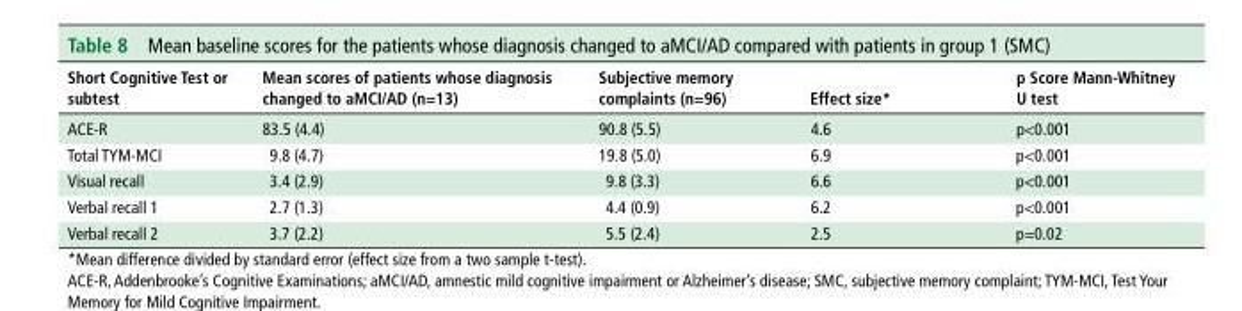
<table><thead><tr><td>short cognitive test or subtest</td><td>Mean scores of patients whose diagnosis changed to aMcI/Ad (n=13)</td><td>subjective memory complaints (n=96)</td><td>effect size*</td><td>p score Mann-Whitney u test</td></tr></thead><tbody><tr><td>ACE-R</td><td>83.5 (4.4)</td><td>90.8 (5.5)</td><td>4.6</td><td>p&lt;0.001</td></tr><tr><td>Total TYM-MCI</td><td>9.8 (4.7)</td><td>19.8 (5.0)</td><td>6.9</td><td>p&lt;0.001</td></tr><tr><td>Visual recall</td><td>3.4 (2.9)</td><td>9.8 (3.3)</td><td>6.6</td><td>p&lt;0.001</td></tr><tr><td>Verbal recall 1</td><td>2.7 (1.3)</td><td>4.4 (0.9)</td><td>6.2</td><td>p&lt;0.001</td></tr><tr><td>Verbal recall 2</td><td>3.7 (2.2)</td><td>5.5 (2.4)</td><td>2.5</td><td>p=0.02</td></tr></tbody></table>